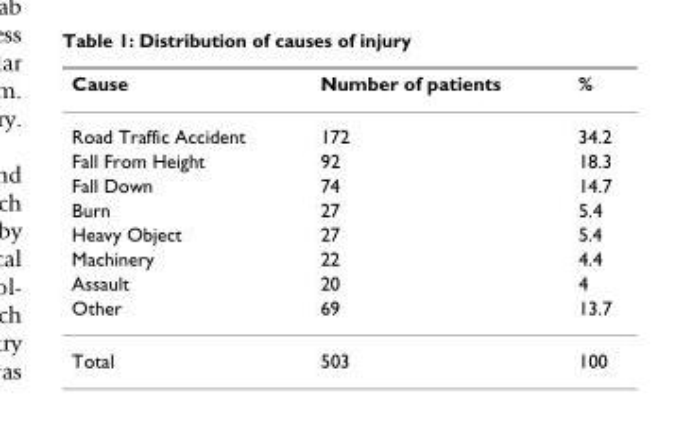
<table><thead><tr><td>Cause</td><td>Number of patients</td><td>%</td></tr></thead><tbody><tr><td>Road Traffic Accident</td><td>172</td><td>34.2</td></tr><tr><td>Fall From Height</td><td>92</td><td>18.3</td></tr><tr><td>Fall Down</td><td>74</td><td>14.7</td></tr><tr><td>Burn</td><td>27</td><td>5.4</td></tr><tr><td>Heavy Object</td><td>27</td><td>5.4</td></tr><tr><td>Machinery</td><td>22</td><td>4.4</td></tr><tr><td>Assault</td><td>20</td><td>4</td></tr><tr><td>Other</td><td>69</td><td>13.7</td></tr><tr><td>Total</td><td>503</td><td>100</td></tr></tbody></table>